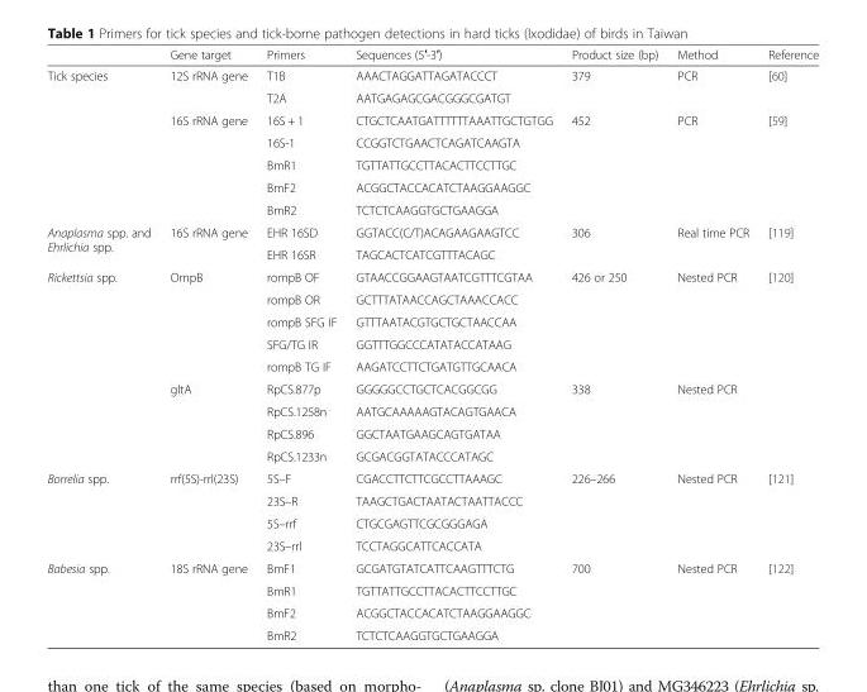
<table><thead><tr><td></td><td>Gene target</td><td>Primers</td><td>Sequences (5′-3′)</td><td>Product size (bp)</td><td>Method</td><td>Reference</td></tr></thead><tbody><tr><td rowspan="7">Tick species</td><td>12S rRNA gene</td><td>T1B</td><td>AAACTAGGATTAGATACCCT</td><td>379</td><td>PCR</td><td>[60]</td></tr><tr><td></td><td>T2A</td><td>AATGAGAGCGACGGGCGATGT</td><td></td><td></td><td></td></tr><tr><td>16S rRNA gene</td><td>16S + 1</td><td>CTGCTCAATGATTTTTTAAATTGCTGTGG</td><td>452</td><td>PCR</td><td>[59]</td></tr><tr><td></td><td>16S-1</td><td>CCGGTCTGAACTCAGATCAAGTA</td><td></td><td></td><td></td></tr><tr><td></td><td>BmR1</td><td>TGTTATTGCCTTACACTTCCTTGC</td><td></td><td></td><td></td></tr><tr><td></td><td>BmF2</td><td>ACGGCTACCACATCTAAGGAAGGC</td><td></td><td></td><td></td></tr><tr><td></td><td>BmR2</td><td>TCTCTCAAGGTGCTGAAGGA</td><td></td><td></td><td></td></tr><tr><td rowspan="2">Anaplasma spp. and Ehrlichia spp.</td><td rowspan="2">16S rRNA gene</td><td>EHR 16SD</td><td>GGTACC(C/T)ACAGAAGAAGTCC</td><td rowspan="2">306</td><td rowspan="2">Real time PCR</td><td rowspan="2">[119]</td></tr><tr><td>EHR 16SR</td><td>TAGCACTCATCGTTTACAGC</td></tr><tr><td rowspan="9">Rickettsia spp.</td><td rowspan="5">OmpB</td><td>rompB OF</td><td>GTAACCGGAAGTAATCGTTTCGTAA</td><td rowspan="5">426 or 250</td><td rowspan="5">Nested PCR</td><td rowspan="9">[120]</td></tr><tr><td>rompB OR</td><td>GCTTTATAACCAGCTAAACCACC</td></tr><tr><td>rompB SFG IF</td><td>GTTTAATACGTGCTGCTAACCAA</td></tr><tr><td>SFG/TG IR</td><td>GGTTTGGCCCATATACCATAAG</td></tr><tr><td>rompB TG IF</td><td>AAGATCCTTCTGATGTTGCAACA</td></tr><tr><td rowspan="4">gltA</td><td>RpCS.877p</td><td>GGGGGCCTGCTCACGGCGG</td><td rowspan="4">338</td><td rowspan="4">Nested PCR</td></tr><tr><td>RpCS.1258n</td><td>AATGCAAAAAGTACAGTGAACA</td></tr><tr><td>RpCS.896</td><td>GGCTAATGAAGCAGTGATAA</td></tr><tr><td>RpCS.1233n</td><td>GCGACGGTATACCCATAGC</td></tr><tr><td rowspan="4">Borrelia spp.</td><td rowspan="4">rrf(5S)-rrl(23S)</td><td>5S–F</td><td>CGACCTTCTTCGCCTTAAAGC</td><td rowspan="4">226–266</td><td rowspan="4">Nested PCR</td><td rowspan="4">[121]</td></tr><tr><td>23S–R</td><td>TAAGCTGACTAATACTAATTACCC</td></tr><tr><td>5S–rrf</td><td>CTGCGAGTTCGCGGGAGA</td></tr><tr><td>23S–rrl</td><td>TCCTAGGCATTCACCATA</td></tr><tr><td rowspan="4">Babesia spp.</td><td rowspan="4">18S rRNA gene</td><td>BmF1</td><td>GCGATGTATCATTCAAGTTTCTG</td><td rowspan="4">700</td><td rowspan="4">Nested PCR</td><td rowspan="4">[122]</td></tr><tr><td>BmR1</td><td>TGTTATTGCCTTACACTTCCTTGC</td></tr><tr><td>BmF2</td><td>ACGGCTACCACATCTAAGGAAGGC</td></tr><tr><td>BmR2</td><td>TCTCTCAAGGTGCTGAAGGA</td></tr></tbody></table>